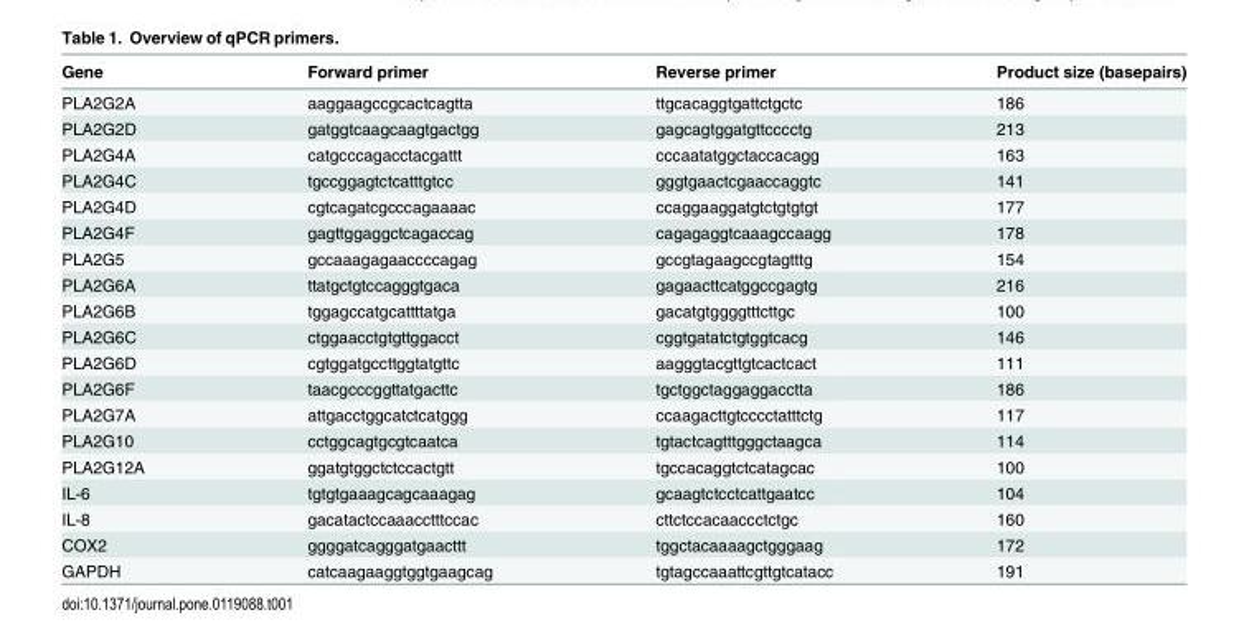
<table><thead><tr><td>Gene</td><td>Forward primer</td><td>Reverse primer</td><td>Product size (basepairs)</td></tr></thead><tbody><tr><td>PLA2G2A</td><td>aaggaagccgcactcagtta</td><td>ttgcacaggtgattctgctc</td><td>186</td></tr><tr><td>PLA2G2D</td><td>gatggtcaagcaagtgactgg</td><td>gagcagtggatgttcccctg</td><td>213</td></tr><tr><td>PLA2G4A</td><td>catgcccagacctacgattt</td><td>cccaatatggctaccacagg</td><td>163</td></tr><tr><td>PLA2G4C</td><td>tgccggagtctcatttgtcc</td><td>gggtgaactcgaaccaggtc</td><td>141</td></tr><tr><td>PLA2G4D</td><td>cgtcagatcgcccagaaaac</td><td>ccaggaaggatgtctgtgtgt</td><td>177</td></tr><tr><td>PLA2G4F</td><td>gagttggaggctcagaccag</td><td>cagagaggtcaaagccaagg</td><td>178</td></tr><tr><td>PLA2G5</td><td>gccaaagagaaccccagag</td><td>gccgtagaagccgtagtttg</td><td>154</td></tr><tr><td>PLA2G6A</td><td>ttatgctgtccagggtgaca</td><td>gagaacttcatggccgagtg</td><td>216</td></tr><tr><td>PLA2G6B</td><td>tggagccatgcattttatga</td><td>gacatgtggggtttcttgc</td><td>100</td></tr><tr><td>PLA2G6C</td><td>ctggaacctgtgttggacct</td><td>cggtgatatctgtggtcacg</td><td>146</td></tr><tr><td>PLA2G6D</td><td>cgtggatgccttggtatgttc</td><td>aagggtacgttgtcactcact</td><td>111</td></tr><tr><td>PLA2G6F</td><td>taacgcccggttatgacttc</td><td>tgctggctaggaggacctta</td><td>186</td></tr><tr><td>PLA2G7A</td><td>attgacctggcatctcatggg</td><td>ccaagacttgtcccctatttctg</td><td>117</td></tr><tr><td>PLA2G10</td><td>cctggcagtgcgtcaatca</td><td>tgtactcagtttgggctaagca</td><td>114</td></tr><tr><td>PLA2G12A</td><td>ggatgtggctctccactgtt</td><td>tgccacaggtctcatagcac</td><td>100</td></tr><tr><td>IL-6</td><td>tgtgtgaaagcagcaaagag</td><td>gcaagtctcctcattgaatcc</td><td>104</td></tr><tr><td>IL-8</td><td>gacatactccaaacctttccac</td><td>cttctccacaaccctctgc</td><td>160</td></tr><tr><td>COX2</td><td>ggggatcagggatgaacttt</td><td>tggctacaaaagctgggaag</td><td>172</td></tr><tr><td>GAPDH</td><td>catcaagaaggtggtgaagcag</td><td>tgtagccaaattcgttgtcatacc</td><td>191</td></tr></tbody></table>